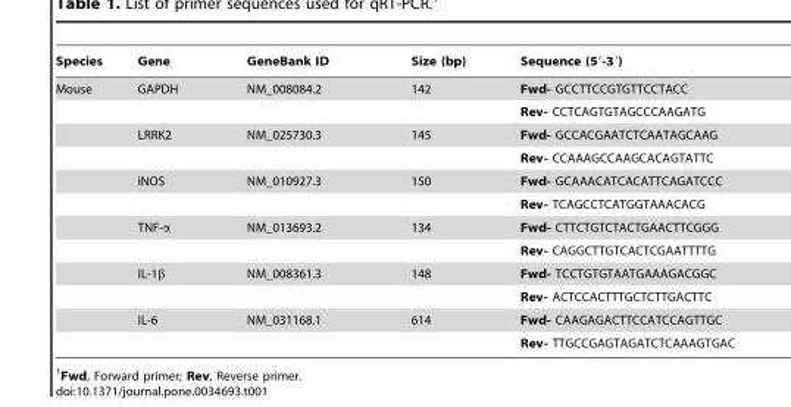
<table><thead><tr><td>Species</td><td>Gene</td><td>GeneBank ID</td><td>Size (bp)</td><td>Sequence (5′-3′)</td></tr></thead><tbody><tr><td rowspan="12">Mouse</td><td>GAPDH</td><td>NM_008084.2</td><td>142</td><td>Fwd- GCCTTCCGTGTTCCTACC</td></tr><tr><td></td><td></td><td></td><td>Rev- CCTCAGTGTAGCCCAAGATG</td></tr><tr><td>LRRK2</td><td>NM_025730.3</td><td>145</td><td>Fwd- GCCACGAATCTCAATAGCAAG</td></tr><tr><td></td><td></td><td></td><td>Rev- CCAAAGCCAAGCACAGTATTC</td></tr><tr><td>iNOS</td><td>NM_010927.3</td><td>150</td><td>Fwd- GCAAACATCACATTCAGATCCC</td></tr><tr><td></td><td></td><td></td><td>Rev- TCAGCCTCATGGTAAACACG</td></tr><tr><td>TNF-α</td><td>NM_013693.2</td><td>134</td><td>Fwd- CTTCTGTCTACTGAACTTCGGG</td></tr><tr><td></td><td></td><td></td><td>Rev- CAGGCTTGTCACTCGAATTTTG</td></tr><tr><td>IL-1β</td><td>NM_008361.3</td><td>148</td><td>Fwd- TCCTGTGTAATGAAAGACGGC</td></tr><tr><td></td><td></td><td></td><td>Rev- ACTCCACTTTGCTCTTGACTTC</td></tr><tr><td>IL-6</td><td>NM_031168.1</td><td>614</td><td>Fwd- CAAGAGACTTCCATCCAGTTGC</td></tr><tr><td></td><td></td><td></td><td>Rev- TTGCCGAGTAGATCTCAAAGTGAC</td></tr></tbody></table>